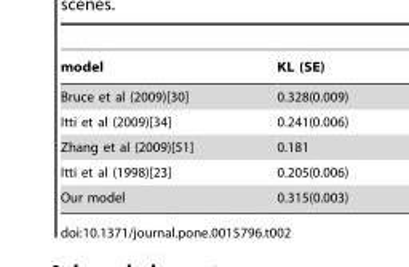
<table><thead><tr><td>model</td><td>KL (SE)</td></tr></thead><tbody><tr><td>Bruce et al (2009)[30]</td><td>0.328(0.009)</td></tr><tr><td>Itti et al (2009)[34]</td><td>0.241(0.006)</td></tr><tr><td>Zhang et al (2009)[51]</td><td>0.181</td></tr><tr><td>Itti et al (1998)[23]</td><td>0.205(0.006)</td></tr><tr><td>Our model</td><td>0.315(0.003)</td></tr></tbody></table>